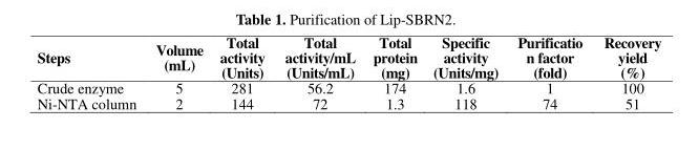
<table><thead><tr><td>Steps</td><td>Volume (mL)</td><td>Total activity (Units)</td><td>Total activity/mL (Units/mL)</td><td>Total protein (mg)</td><td>Specific activity (Units/mg)</td><td>Purificatio n factor (fold)</td><td>Recovery yield (%)</td></tr></thead><tbody><tr><td>Crude enzyme</td><td>5</td><td>281</td><td>56.2</td><td>174</td><td>1.6</td><td>1</td><td>100</td></tr><tr><td>Ni-NTA column</td><td>2</td><td>144</td><td>72</td><td>1.3</td><td>118</td><td>74</td><td>51</td></tr></tbody></table>